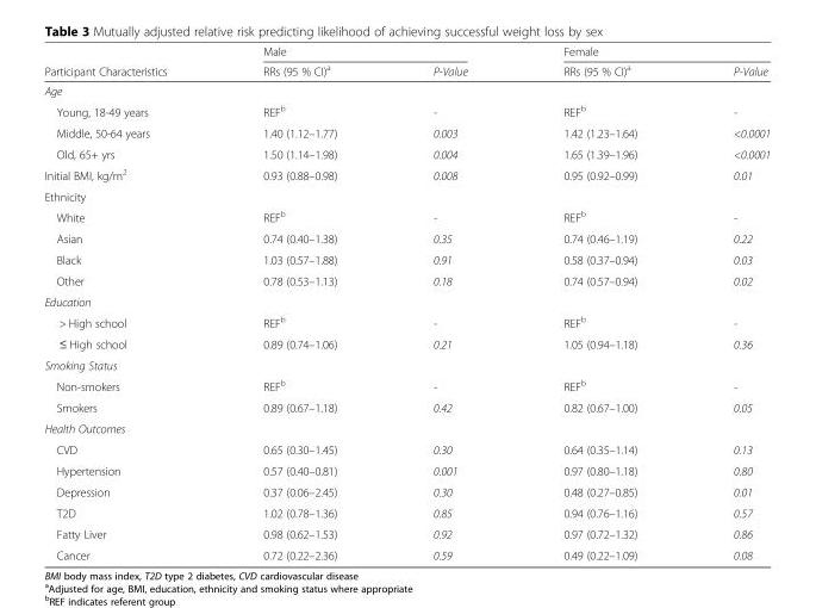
<table><thead><tr><td rowspan="2">Participant Characteristics</td><td colspan="2">Male</td><td colspan="2">Female</td></tr><tr><td>RRs (95 % CI)<sup>a</sup></td><td>P-Value</td><td>RRs (95 % CI)<sup>a</sup></td><td>P-Value</td></tr></thead><tbody><tr><td colspan="5">Age</td></tr><tr><td>Young, 18-49 years</td><td>REF<sup>b</sup></td><td>-</td><td>REF<sup>b</sup></td><td>-</td></tr><tr><td>Middle, 50-64 years</td><td>1.40 (1.12–1.77)</td><td>0.003</td><td>1.42 (1.23–1.64)</td><td>&lt;0.0001</td></tr><tr><td>Old, 65+ yrs</td><td>1.50 (1.14–1.98)</td><td>0.004</td><td>1.65 (1.39–1.96)</td><td>&lt;0.0001</td></tr><tr><td>Initial BMI, kg/m<sup>2</sup></td><td>0.93 (0.88–0.98)</td><td>0.008</td><td>0.95 (0.92–0.99)</td><td>0.01</td></tr><tr><td colspan="5">Ethnicity</td></tr><tr><td>White</td><td>REF<sup>b</sup></td><td>-</td><td>REF<sup>b</sup></td><td>-</td></tr><tr><td>Asian</td><td>0.74 (0.40–1.38)</td><td>0.35</td><td>0.74 (0.46–1.19)</td><td>0.22</td></tr><tr><td>Black</td><td>1.03 (0.57–1.88)</td><td>0.91</td><td>0.58 (0.37–0.94)</td><td>0.03</td></tr><tr><td>Other</td><td>0.78 (0.53–1.13)</td><td>0.18</td><td>0.74 (0.57–0.94)</td><td>0.02</td></tr><tr><td colspan="5">Education</td></tr><tr><td>&gt; High school</td><td>REF<sup>b</sup></td><td>-</td><td>REF<sup>b</sup></td><td>-</td></tr><tr><td>≤ High school</td><td>0.89 (0.74–1.06)</td><td>0.21</td><td>1.05 (0.94–1.18)</td><td>0.36</td></tr><tr><td colspan="5">Smoking Status</td></tr><tr><td>Non-smokers</td><td>REF<sup>b</sup></td><td>-</td><td>REF<sup>b</sup></td><td>-</td></tr><tr><td>Smokers</td><td>0.89 (0.67–1.18)</td><td>0.42</td><td>0.82 (0.67–1.00)</td><td>0.05</td></tr><tr><td colspan="5">Health Outcomes</td></tr><tr><td>CVD</td><td>0.65 (0.30–1.45)</td><td>0.30</td><td>0.64 (0.35–1.14)</td><td>0.13</td></tr><tr><td>Hypertension</td><td>0.57 (0.40–0.81)</td><td>0.001</td><td>0.97 (0.80–1.18)</td><td>0.80</td></tr><tr><td>Depression</td><td>0.37 (0.06–2.45)</td><td>0.30</td><td>0.48 (0.27–0.85)</td><td>0.01</td></tr><tr><td>T2D</td><td>1.02 (0.78–1.36)</td><td>0.85</td><td>0.94 (0.76–1.16)</td><td>0.57</td></tr><tr><td>Fatty Liver</td><td>0.98 (0.62–1.53)</td><td>0.92</td><td>0.97 (0.72–1.32)</td><td>0.86</td></tr><tr><td>Cancer</td><td>0.72 (0.22–2.36)</td><td>0.59</td><td>0.49 (0.22–1.09)</td><td>0.08</td></tr></tbody></table>